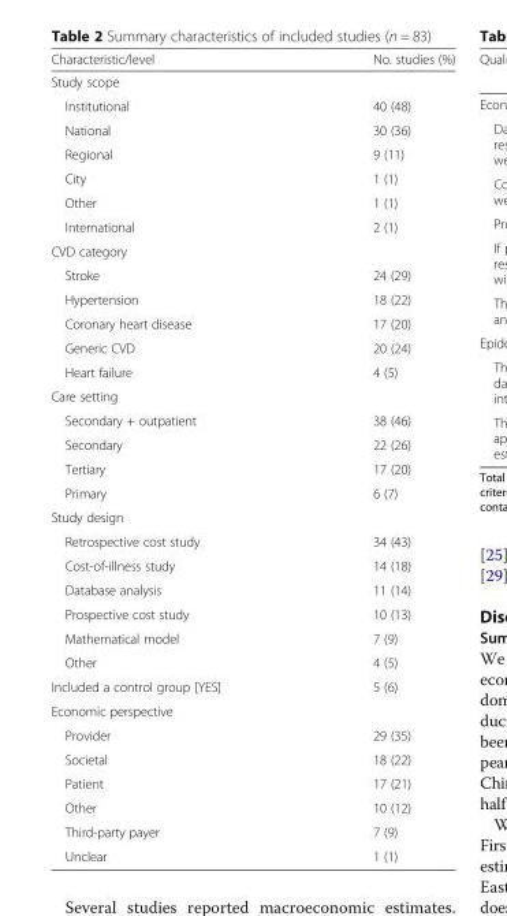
<table><thead><tr><td>Characteristic/level</td><td>No. studies (%)</td></tr></thead><tbody><tr><td colspan="2">Study scope</td></tr><tr><td>Institutional</td><td>40 (48)</td></tr><tr><td>National</td><td>30 (36)</td></tr><tr><td>Regional</td><td>9 (11)</td></tr><tr><td>City</td><td>1 (1)</td></tr><tr><td>Other</td><td>1 (1)</td></tr><tr><td>International</td><td>2 (1)</td></tr><tr><td colspan="2">CVD category</td></tr><tr><td>Stroke</td><td>24 (29)</td></tr><tr><td>Hypertension</td><td>18 (22)</td></tr><tr><td>Coronary heart disease</td><td>17 (20)</td></tr><tr><td>Generic CVD</td><td>20 (24)</td></tr><tr><td>Heart failure</td><td>4 (5)</td></tr><tr><td colspan="2">Care setting</td></tr><tr><td>Secondary + outpatient</td><td>38 (46)</td></tr><tr><td>Secondary</td><td>22 (26)</td></tr><tr><td>Tertiary</td><td>17 (20)</td></tr><tr><td>Primary</td><td>6 (7)</td></tr><tr><td colspan="2">Study design</td></tr><tr><td>Retrospective cost study</td><td>34 (43)</td></tr><tr><td>Cost-of-illness study</td><td>14 (18)</td></tr><tr><td>Database analysis</td><td>11 (14)</td></tr><tr><td>Prospective cost study</td><td>10 (13)</td></tr><tr><td>Mathematical model</td><td>7 (9)</td></tr><tr><td>Other</td><td>4 (5)</td></tr><tr><td>Included a control group [YES]</td><td>5 (6)</td></tr><tr><td colspan="2">Economic perspective</td></tr><tr><td>Provider</td><td>29 (35)</td></tr><tr><td>Societal</td><td>18 (22)</td></tr><tr><td>Patient</td><td>17 (21)</td></tr><tr><td>Other</td><td>10 (12)</td></tr><tr><td>Third-party payer</td><td>7 (9)</td></tr><tr><td>Unclear</td><td>1 (1)</td></tr></tbody></table>